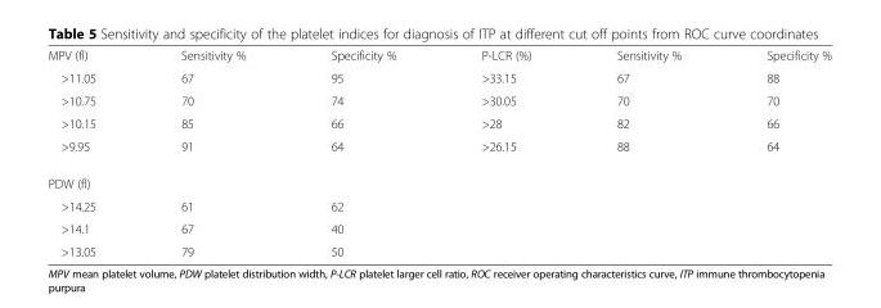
<table><tbody><tr><td>MPV (fl)</td><td>Sensitivity %</td><td>Specificity %</td><td>P-LCR (%)</td><td>Sensitivity %</td><td>Specificity %</td></tr><tr><td>&gt;11.05</td><td>67</td><td>95</td><td>&gt;33.15</td><td>67</td><td>88</td></tr><tr><td>&gt;10.75</td><td>70</td><td>74</td><td>&gt;30.05</td><td>70</td><td>70</td></tr><tr><td>&gt;10.15</td><td>85</td><td>66</td><td>&gt;28</td><td>82</td><td>66</td></tr><tr><td>&gt;9.95</td><td>91</td><td>64</td><td>&gt;26.15</td><td>88</td><td>64</td></tr><tr><td colspan="6">PDW (fl)</td></tr><tr><td>&gt;14.25</td><td>61</td><td>62</td><td></td><td></td><td></td></tr><tr><td>&gt;14.1</td><td>67</td><td>40</td><td></td><td></td><td></td></tr><tr><td>&gt;13.05</td><td>79</td><td>50</td><td></td><td></td><td></td></tr></tbody></table>